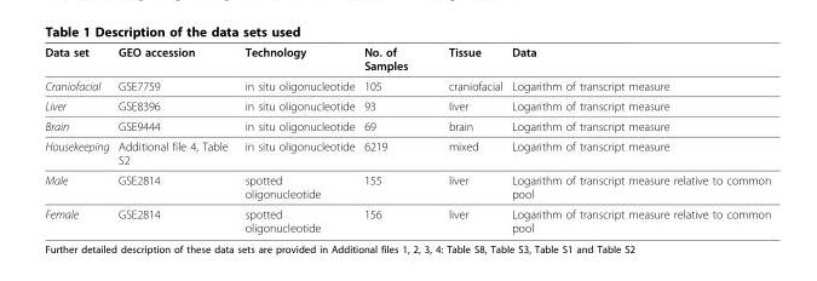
<table><thead><tr><td>Data set</td><td>GEO accession</td><td>Technology</td><td>No. of Samples</td><td>Tissue</td><td>Data</td></tr></thead><tbody><tr><td>Craniofacial</td><td>GSE7759</td><td>in situ oligonucleotide</td><td>105</td><td>craniofacial</td><td>Logarithm of transcript measure</td></tr><tr><td>Liver</td><td>GSE8396</td><td>in situ oligonucleotide</td><td>93</td><td>liver</td><td>Logarithm of transcript measure</td></tr><tr><td>Brain</td><td>GSE9444</td><td>in situ oligonucleotide</td><td>69</td><td>brain</td><td>Logarithm of transcript measure</td></tr><tr><td>Housekeeping</td><td>Additional file 4, Table S2</td><td>in situ oligonucleotide</td><td>6219</td><td>mixed</td><td>Logarithm of transcript measure</td></tr><tr><td>Male</td><td>GSE2814</td><td>spotted oligonucleotide</td><td>155</td><td>liver</td><td>Logarithm of transcript measure relative to common pool</td></tr><tr><td>Female</td><td>GSE2814</td><td>spotted oligonucleotide</td><td>156</td><td>liver</td><td>Logarithm of transcript measure relative to common pool</td></tr></tbody></table>